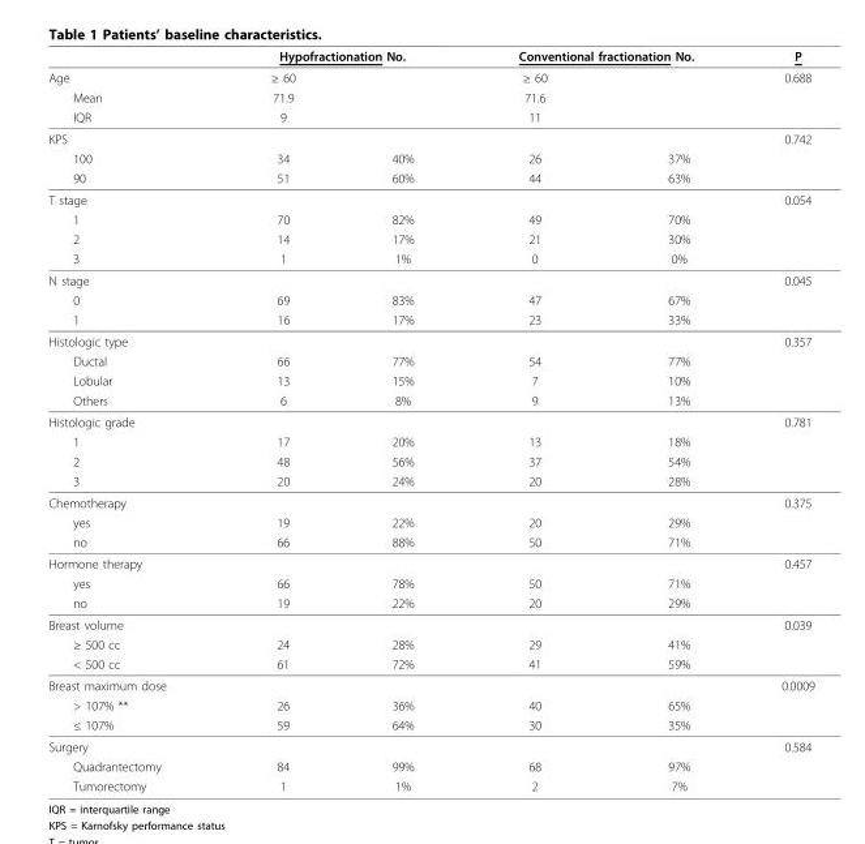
<table><thead><tr><td rowspan="2">Age</td><td colspan="2">Hypofractionation No.</td><td colspan="2">Conventional fractionation No.</td><td rowspan="2">P 0.688</td></tr><tr><td>≥ 60</td><td></td><td>≥ 60</td><td></td></tr></thead><tbody><tr><td>Mean</td><td>71.9</td><td></td><td>71.6</td><td></td><td></td></tr><tr><td>IQR</td><td>9</td><td></td><td>11</td><td></td><td></td></tr><tr><td>KPS</td><td></td><td></td><td></td><td></td><td>0.742</td></tr><tr><td>100</td><td>34</td><td>40%</td><td>26</td><td>37%</td><td></td></tr><tr><td>90</td><td>51</td><td>60%</td><td>44</td><td>63%</td><td></td></tr><tr><td>T stage</td><td></td><td></td><td></td><td></td><td>0.054</td></tr><tr><td>1</td><td>70</td><td>82%</td><td>49</td><td>70%</td><td></td></tr><tr><td>2</td><td>14</td><td>17%</td><td>21</td><td>30%</td><td></td></tr><tr><td>3</td><td>1</td><td>1%</td><td>0</td><td>0%</td><td></td></tr><tr><td>N stage</td><td></td><td></td><td></td><td></td><td>0.045</td></tr><tr><td>0</td><td>69</td><td>83%</td><td>47</td><td>67%</td><td></td></tr><tr><td>1</td><td>16</td><td>17%</td><td>23</td><td>33%</td><td></td></tr><tr><td>Histologic type</td><td></td><td></td><td></td><td></td><td>0.357</td></tr><tr><td>Ductal</td><td>66</td><td>77%</td><td>54</td><td>77%</td><td></td></tr><tr><td>Lobular</td><td>13</td><td>15%</td><td>7</td><td>10%</td><td></td></tr><tr><td>Others</td><td>6</td><td>8%</td><td>9</td><td>13%</td><td></td></tr><tr><td>Histologic grade</td><td></td><td></td><td></td><td></td><td>0.781</td></tr><tr><td>1</td><td>17</td><td>20%</td><td>13</td><td>18%</td><td></td></tr><tr><td>2</td><td>48</td><td>56%</td><td>37</td><td>54%</td><td></td></tr><tr><td>3</td><td>20</td><td>24%</td><td>20</td><td>28%</td><td></td></tr><tr><td>Chemotherapy</td><td></td><td></td><td></td><td></td><td>0.375</td></tr><tr><td>yes</td><td>19</td><td>22%</td><td>20</td><td>29%</td><td></td></tr><tr><td>no</td><td>66</td><td>88%</td><td>50</td><td>71%</td><td></td></tr><tr><td>Hormone therapy</td><td></td><td></td><td></td><td></td><td>0.457</td></tr><tr><td>yes</td><td>66</td><td>78%</td><td>50</td><td>71%</td><td></td></tr><tr><td>no</td><td>19</td><td>22%</td><td>20</td><td>29%</td><td></td></tr><tr><td>Breast volume</td><td></td><td></td><td></td><td></td><td>0.039</td></tr><tr><td>≥ 500 cc</td><td>24</td><td>28%</td><td>29</td><td>41%</td><td></td></tr><tr><td>&lt; 500 cc</td><td>61</td><td>72%</td><td>41</td><td>59%</td><td></td></tr><tr><td>Breast maximum dose</td><td></td><td></td><td></td><td></td><td>0.0009</td></tr><tr><td>&gt; 107% **</td><td>26</td><td>36%</td><td>40</td><td>65%</td><td></td></tr><tr><td>≤ 107%</td><td>59</td><td>64%</td><td>30</td><td>35%</td><td></td></tr><tr><td>Surgery</td><td></td><td></td><td></td><td></td><td>0.584</td></tr><tr><td>Quadrantectomy</td><td>84</td><td>99%</td><td>68</td><td>97%</td><td></td></tr><tr><td>Tumorectomy</td><td>1</td><td>1%</td><td>2</td><td>7%</td><td></td></tr></tbody></table>